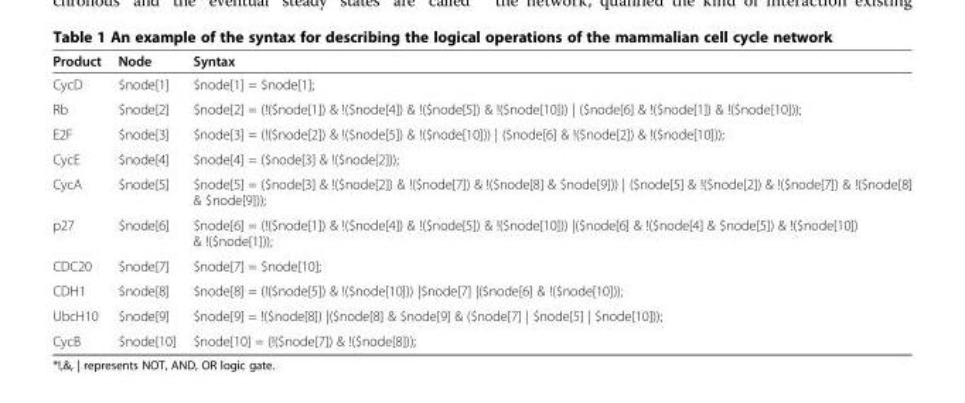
<table><thead><tr><td>Product</td><td>Node</td><td>Syntax</td></tr></thead><tbody><tr><td>CycD</td><td>$node[1]</td><td>$node[1] = $node[1];</td></tr><tr><td>Rb</td><td>$node[2]</td><td>$node[2] = (!($node[1]) &amp; !($node[4]) &amp; !($node[5]) &amp; !($node[10])) | ($node[6] &amp; !($node[1]) &amp; !($node[10]));</td></tr><tr><td>E2F</td><td>$node[3]</td><td>$node[3] = (!($node[2]) &amp; !($node[5]) &amp; !($node[10])) | ($node[6] &amp; !($node[2]) &amp; !($node[10]));</td></tr><tr><td>CycE</td><td>$node[4]</td><td>$node[4] = ($node[3] &amp; !($node[2]));</td></tr><tr><td>CycA</td><td>$node[5]</td><td>$node[5] = ($node[3] &amp; !($node[2]) &amp; !($node[7]) &amp; !($node[8] &amp; $node[9])) | ($node[5] &amp; !($node[2]) &amp; !($node[7]) &amp; !($node[8] &amp; $node[9]));</td></tr><tr><td>p27</td><td>$node[6]</td><td>$node[6] = (!($node[1]) &amp; !($node[4]) &amp; !($node[5]) &amp; !($node[10])) |($node[6] &amp; !($node[4] &amp; $node[5]) &amp; !($node[10]) &amp; !($node[1]));</td></tr><tr><td>CDC20</td><td>$node[7]</td><td>$node[7] = $node[10];</td></tr><tr><td>CDH1</td><td>$node[8]</td><td>$node[8] = (!($node[5]) &amp; !($node[10])) |$node[7] |($node[6] &amp; !($node[10]));</td></tr><tr><td>UbcH10</td><td>$node[9]</td><td>$node[9] = !($node[8]) |($node[8] &amp; $node[9] &amp; ($node[7] | $node[5] | $node[10]));</td></tr><tr><td>CycB</td><td>$node[10]</td><td>$node[10] = (!($node[7]) &amp; !($node[8]));</td></tr></tbody></table>